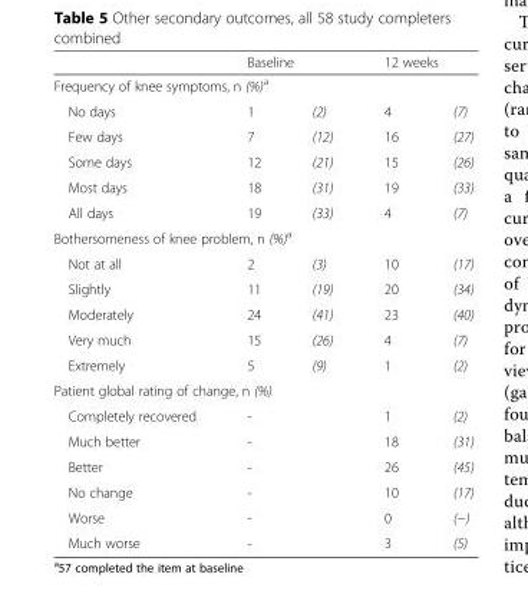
<table><thead><tr><td></td><td colspan="2">Baseline</td><td colspan="2">12 weeks</td></tr><tr><td colspan="5">Frequency of knee symptoms, n (%)<sup>a</sup></td></tr><tr><td>No days</td><td>1</td><td>(2)</td><td>4</td><td>(7)</td></tr></thead><tbody><tr><td>Few days</td><td>7</td><td>(12)</td><td>16</td><td>(27)</td></tr><tr><td>Some days</td><td>12</td><td>(21)</td><td>15</td><td>(26)</td></tr><tr><td>Most days</td><td>18</td><td>(31)</td><td>19</td><td>(33)</td></tr><tr><td>All days</td><td>19</td><td>(33)</td><td>4</td><td>(7)</td></tr><tr><td colspan="5">Bothersomeness of knee problem, n (%)<sup>a</sup></td></tr><tr><td>Not at all</td><td>2</td><td>(3)</td><td>10</td><td>(17)</td></tr><tr><td>Slightly</td><td>11</td><td>(19)</td><td>20</td><td>(34)</td></tr><tr><td>Moderately</td><td>24</td><td>(41)</td><td>23</td><td>(40)</td></tr><tr><td>Very much</td><td>15</td><td>(26)</td><td>4</td><td>(7)</td></tr><tr><td>Extremely</td><td>5</td><td>(9)</td><td>1</td><td>(2)</td></tr><tr><td colspan="5">Patient global rating of change, n (%)</td></tr><tr><td>Completely recovered</td><td colspan="2">-</td><td>1</td><td>(2)</td></tr><tr><td>Much better</td><td colspan="2">-</td><td>18</td><td>(31)</td></tr><tr><td>Better</td><td colspan="2">-</td><td>26</td><td>(45)</td></tr><tr><td>No change</td><td colspan="2">-</td><td>10</td><td>(17)</td></tr><tr><td>Worse</td><td colspan="2">-</td><td>0</td><td>(−)</td></tr><tr><td>Much worse</td><td colspan="2">-</td><td>3</td><td>(5)</td></tr></tbody></table>